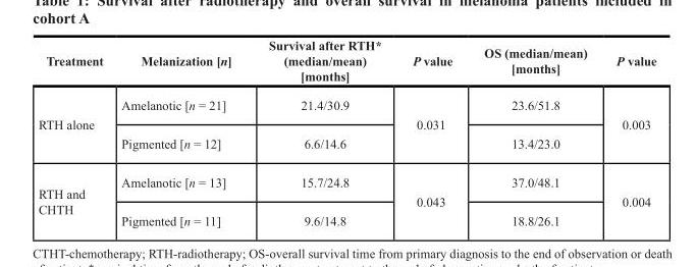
<table><thead><tr><td>Treatment</td><td>Melanization [n]</td><td>Survival after RTH* (median/mean) [months]</td><td>P value</td><td>OS (median/mean) [months]</td><td>P value</td></tr></thead><tbody><tr><td rowspan="2">RTH alone</td><td>Amelanotic [n = 21]</td><td>21.4/30.9</td><td rowspan="2">0.031</td><td>23.6/51.8</td><td rowspan="2">0.003</td></tr><tr><td>Pigmented [n = 12]</td><td>6.6/14.6</td><td>13.4/23.0</td></tr><tr><td rowspan="2">RTH and CHTH</td><td>Amelanotic [n = 13]</td><td>15.7/24.8</td><td rowspan="2">0.043</td><td>37.0/48.1</td><td rowspan="2">0.004</td></tr><tr><td>Pigmented [n = 11]</td><td>9.6/14.8</td><td>18.8/26.1</td></tr></tbody></table>